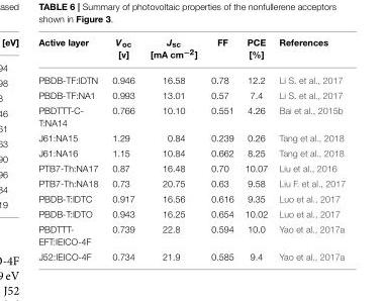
<table><thead><tr><td>Active layer</td><td>V<sub>oc</sub> [v]</td><td>J<sub>sc</sub> [mA cm<sup>−2</sup>]</td><td>FF</td><td>PCE [%]</td><td>References</td></tr></thead><tbody><tr><td>PBDB-TF:IDTN</td><td>0.946</td><td>16.58</td><td>0.78</td><td>12.2</td><td>Li S. et al., 2017</td></tr><tr><td>PBDB-TF:NA1</td><td>0.993</td><td>13.01</td><td>0.57</td><td>7.4</td><td>Li S. et al., 2017</td></tr><tr><td>PBDTTT-C- T:NA14</td><td>0.766</td><td>10.10</td><td>0.551</td><td>4.26</td><td>Bai et al., 2015b</td></tr><tr><td>J61:NA15</td><td>1.29</td><td>0.84</td><td>0.239</td><td>0.26</td><td>Tang et al., 2018</td></tr><tr><td>J61:NA16</td><td>1.15</td><td>10.84</td><td>0.662</td><td>8.25</td><td>Tang et al., 2018</td></tr><tr><td>PTB7-Th:NA17</td><td>0.87</td><td>16.48</td><td>0.70</td><td>10.07</td><td>Liu et al., 2016</td></tr><tr><td>PTB7-Th:NA18</td><td>0.73</td><td>20.75</td><td>0.63</td><td>9.58</td><td>Liu F. et al., 2017</td></tr><tr><td>PBDB-T:IDTC</td><td>0.917</td><td>16.56</td><td>0.616</td><td>9.35</td><td>Luo et al., 2017</td></tr><tr><td>PBDB-T:IDTO</td><td>0.943</td><td>16.25</td><td>0.654</td><td>10.02</td><td>Luo et al., 2017</td></tr><tr><td>PBDTTT- EFT:IEICO-4F</td><td>0.739</td><td>22.8</td><td>0.594</td><td>10.0</td><td>Yao et al., 2017a</td></tr><tr><td>J52:IEICO-4F</td><td>0.734</td><td>21.9</td><td>0.585</td><td>9.4</td><td>Yao et al., 2017a</td></tr></tbody></table>